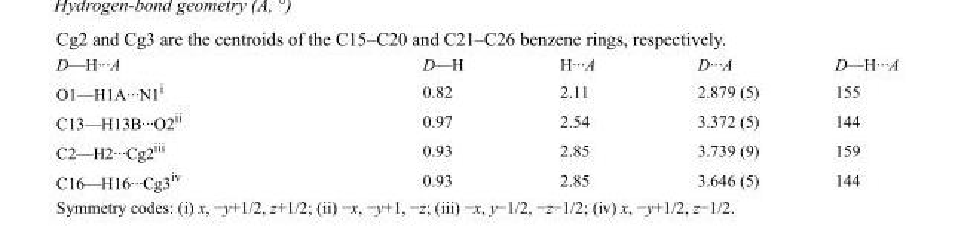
<table><tbody><tr><td>D—H···A</td><td>D—H</td><td>H···A</td><td>D···A</td><td>D—H···A</td></tr><tr><td>O1—H1A···N1<sup>i</sup></td><td>0.82</td><td>2.11</td><td>2.879 (5)</td><td>155</td></tr><tr><td>C13—H13B···O2<sup>ii</sup></td><td>0.97</td><td>2.54</td><td>3.372 (5)</td><td>144</td></tr><tr><td>C2—H2···Cg2<sup>iii</sup></td><td>0.93</td><td>2.85</td><td>3.739 (9)</td><td>159</td></tr><tr><td>C16—H16···Cg3<sup>iv</sup></td><td>0.93</td><td>2.85</td><td>3.646 (5)</td><td>144</td></tr></tbody></table>